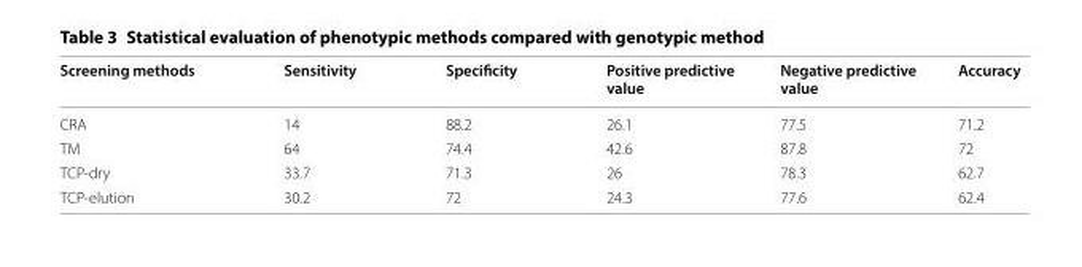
<table><thead><tr><td>Screening methods</td><td>Sensitivity</td><td>Specificity</td><td>Positive predictive value</td><td>Negative predictive value</td><td>Accuracy</td></tr></thead><tbody><tr><td>CRA</td><td>14</td><td>88.2</td><td>26.1</td><td>77.5</td><td>71.2</td></tr><tr><td>TM</td><td>64</td><td>74.4</td><td>42.6</td><td>87.8</td><td>72</td></tr><tr><td>TCP-dry</td><td>33.7</td><td>71.3</td><td>26</td><td>78.3</td><td>62.7</td></tr><tr><td>TCP-elution</td><td>30.2</td><td>72</td><td>24.3</td><td>77.6</td><td>62.4</td></tr></tbody></table>